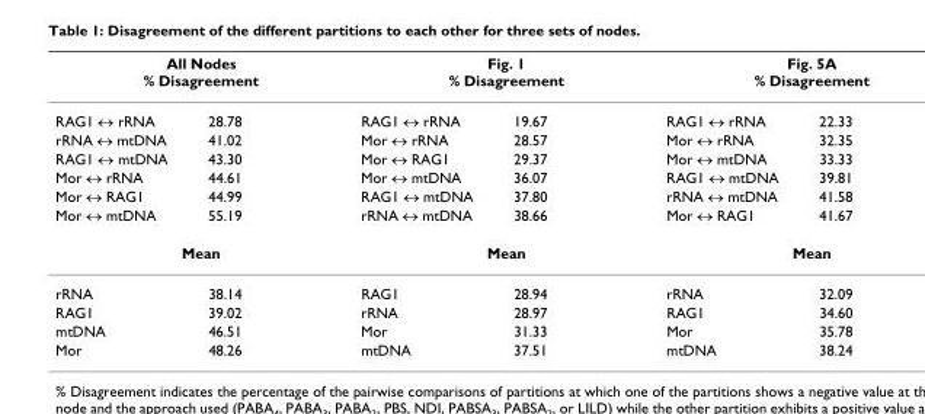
<table><thead><tr><td colspan="2">All Nodes % Disagreement</td><td colspan="2">Fig. 1 % Disagreement</td><td colspan="2">Fig. 5A % Disagreement</td></tr><tr><td>RAG1 ↔ rRNA</td><td>28.78</td><td>RAG1 ↔ rRNA</td><td>19.67</td><td>RAG1 ↔ rRNA</td><td>22.33</td></tr></thead><tbody><tr><td>rRNA ↔ mtDNA</td><td>41.02</td><td>Mor ↔ rRNA</td><td>28.57</td><td>Mor ↔ rRNA</td><td>32.35</td></tr><tr><td>RAG1 ↔ mtDNA</td><td>43.30</td><td>Mor ↔ RAG1</td><td>29.37</td><td>Mor ↔ mtDNA</td><td>33.33</td></tr><tr><td>Mor ↔ rRNA</td><td>44.61</td><td>Mor ↔ mtDNA</td><td>36.07</td><td>RAG1 ↔ mtDNA</td><td>39.81</td></tr><tr><td>Mor ↔ RAG1</td><td>44.99</td><td>RAG1 ↔ mtDNA</td><td>37.80</td><td>rRNA ↔ mtDNA</td><td>41.58</td></tr><tr><td>Mor ↔ mtDNA</td><td>55.19</td><td>rRNA ↔ mtDNA</td><td>38.66</td><td>Mor ↔ RAG1</td><td>41.67</td></tr><tr><td colspan="2">Mean</td><td colspan="2">Mean</td><td colspan="2">Mean</td></tr><tr><td>rRNA</td><td>38.14</td><td>RAG1</td><td>28.94</td><td>rRNA</td><td>32.09</td></tr><tr><td>RAG1</td><td>39.02</td><td>rRNA</td><td>28.97</td><td>RAG1</td><td>34.60</td></tr><tr><td>mtDNA</td><td>46.51</td><td>Mor</td><td>31.33</td><td>Mor</td><td>35.78</td></tr><tr><td>Mor</td><td>48.26</td><td>mtDNA</td><td>37.51</td><td>mtDNA</td><td>38.24</td></tr></tbody></table>